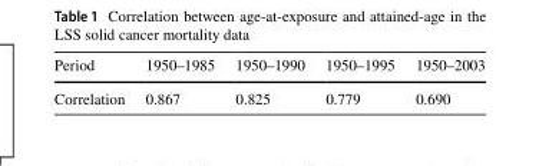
<table><thead><tr><td>Period</td><td>1950–1985</td><td>1950–1990</td><td>1950–1995</td><td>1950–2003</td></tr></thead><tbody><tr><td>Correlation</td><td>0.867</td><td>0.825</td><td>0.779</td><td>0.690</td></tr></tbody></table>